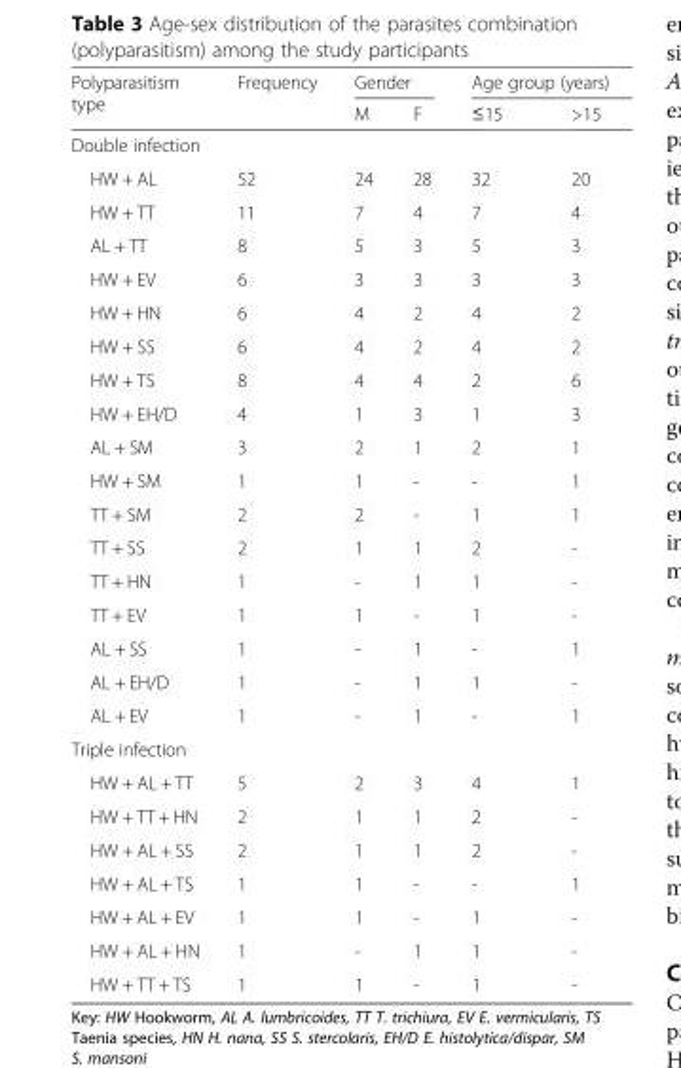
<table><thead><tr><td rowspan="2">Polyparasitism type</td><td rowspan="2">Frequency</td><td colspan="2">Gender</td><td colspan="2">Age group (years)</td></tr><tr><td>M</td><td>F</td><td>≤15</td><td>&gt;15</td></tr></thead><tbody><tr><td colspan="6">Double infection</td></tr><tr><td>HW + AL</td><td>52</td><td>24</td><td>28</td><td>32</td><td>20</td></tr><tr><td>HW + TT</td><td>11</td><td>7</td><td>4</td><td>7</td><td>4</td></tr><tr><td>AL + TT</td><td>8</td><td>5</td><td>3</td><td>5</td><td>3</td></tr><tr><td>HW + EV</td><td>6</td><td>3</td><td>3</td><td>3</td><td>3</td></tr><tr><td>HW + HN</td><td>6</td><td>4</td><td>2</td><td>4</td><td>2</td></tr><tr><td>HW + SS</td><td>6</td><td>4</td><td>2</td><td>4</td><td>2</td></tr><tr><td>HW + TS</td><td>8</td><td>4</td><td>4</td><td>2</td><td>6</td></tr><tr><td>HW + EH/D</td><td>4</td><td>1</td><td>3</td><td>1</td><td>3</td></tr><tr><td>AL + SM</td><td>3</td><td>2</td><td>1</td><td>2</td><td>1</td></tr><tr><td>HW + SM</td><td>1</td><td>1</td><td>-</td><td>-</td><td>1</td></tr><tr><td>TT + SM</td><td>2</td><td>2</td><td>-</td><td>1</td><td>1</td></tr><tr><td>TT + SS</td><td>2</td><td>1</td><td>1</td><td>2</td><td>-</td></tr><tr><td>TT + HN</td><td>1</td><td>-</td><td>1</td><td>1</td><td>-</td></tr><tr><td>TT + EV</td><td>1</td><td>1</td><td>-</td><td>1</td><td>-</td></tr><tr><td>AL + SS</td><td>1</td><td>-</td><td>1</td><td>-</td><td>1</td></tr><tr><td>AL + EH/D</td><td>1</td><td>-</td><td>1</td><td>1</td><td>-</td></tr><tr><td>AL + EV</td><td>1</td><td>-</td><td>1</td><td>-</td><td>1</td></tr><tr><td colspan="6">Triple infection</td></tr><tr><td>HW + AL + TT</td><td>5</td><td>2</td><td>3</td><td>4</td><td>1</td></tr><tr><td>HW + TT + HN</td><td>2</td><td>1</td><td>1</td><td>2</td><td>-</td></tr><tr><td>HW + AL + SS</td><td>2</td><td>1</td><td>1</td><td>2</td><td>-</td></tr><tr><td>HW + AL + TS</td><td>1</td><td>1</td><td>-</td><td>-</td><td>1</td></tr><tr><td>HW + AL + EV</td><td>1</td><td>1</td><td>-</td><td>1</td><td>-</td></tr><tr><td>HW + AL + HN</td><td>1</td><td>-</td><td>1</td><td>1</td><td>-</td></tr><tr><td>HW + TT + TS</td><td>1</td><td>1</td><td>-</td><td>1</td><td>-</td></tr></tbody></table>